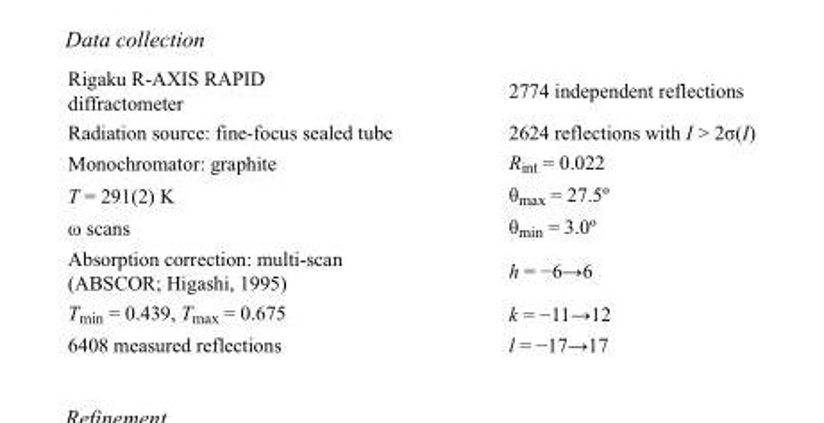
<table><tbody><tr><td>Rigaku R-AXIS RAPID diffractometer</td><td>2774 independent reflections</td></tr><tr><td>Radiation source: fine-focus sealed tube</td><td>2624 reflections with I &gt; 2σ(I)</td></tr><tr><td>Monochromator: graphite</td><td>R<sub>int</sub> = 0.022</td></tr><tr><td>T = 291(2) K</td><td>θ<sub>max</sub> = 27.5º</td></tr><tr><td>ω scans</td><td>θ<sub>min</sub> = 3.0º</td></tr><tr><td>Absorption correction: multi-scan (ABSCOR; Higashi, 1995)</td><td>h = −6→6</td></tr><tr><td>T<sub>min</sub> = 0.439, T<sub>max</sub> = 0.675</td><td>k = −11→12</td></tr><tr><td>6408 measured reflections</td><td>l = −17→17</td></tr></tbody></table>